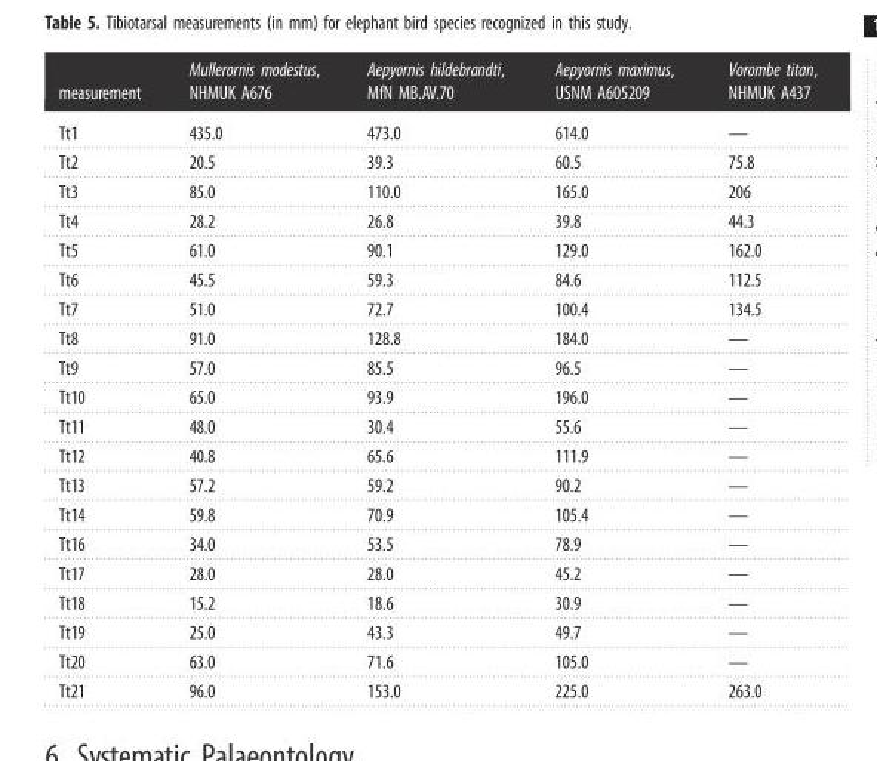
<table><thead><tr><td>measurement</td><td>Mullerornis modestus, NHMUK A676</td><td>Aepyornis hildebrandti, MfN MB.AV.70</td><td>Aepyornis maximus, USNM A605209</td><td>Vorombe titan, NHMUK A437</td></tr></thead><tbody><tr><td>Tt1</td><td>435.0</td><td>473.0</td><td>614.0</td><td>—</td></tr><tr><td>Tt2</td><td>20.5</td><td>39.3</td><td>60.5</td><td>75.8</td></tr><tr><td>Tt3</td><td>85.0</td><td>110.0</td><td>165.0</td><td>206</td></tr><tr><td>Tt4</td><td>28.2</td><td>26.8</td><td>39.8</td><td>44.3</td></tr><tr><td>Tt5</td><td>61.0</td><td>90.1</td><td>129.0</td><td>162.0</td></tr><tr><td>Tt6</td><td>45.5</td><td>59.3</td><td>84.6</td><td>112.5</td></tr><tr><td>Tt7</td><td>51.0</td><td>72.7</td><td>100.4</td><td>134.5</td></tr><tr><td>Tt8</td><td>91.0</td><td>128.8</td><td>184.0</td><td>—</td></tr><tr><td>Tt9</td><td>57.0</td><td>85.5</td><td>96.5</td><td>—</td></tr><tr><td>Tt10</td><td>65.0</td><td>93.9</td><td>196.0</td><td>—</td></tr><tr><td>Tt11</td><td>48.0</td><td>30.4</td><td>55.6</td><td>—</td></tr><tr><td>Tt12</td><td>40.8</td><td>65.6</td><td>111.9</td><td>—</td></tr><tr><td>Tt13</td><td>57.2</td><td>59.2</td><td>90.2</td><td>—</td></tr><tr><td>Tt14</td><td>59.8</td><td>70.9</td><td>105.4</td><td>—</td></tr><tr><td>Tt16</td><td>34.0</td><td>53.5</td><td>78.9</td><td>—</td></tr><tr><td>Tt17</td><td>28.0</td><td>28.0</td><td>45.2</td><td>—</td></tr><tr><td>Tt18</td><td>15.2</td><td>18.6</td><td>30.9</td><td>—</td></tr><tr><td>Tt19</td><td>25.0</td><td>43.3</td><td>49.7</td><td>—</td></tr><tr><td>Tt20</td><td>63.0</td><td>71.6</td><td>105.0</td><td>—</td></tr><tr><td>Tt21</td><td>96.0</td><td>153.0</td><td>225.0</td><td>263.0</td></tr></tbody></table>